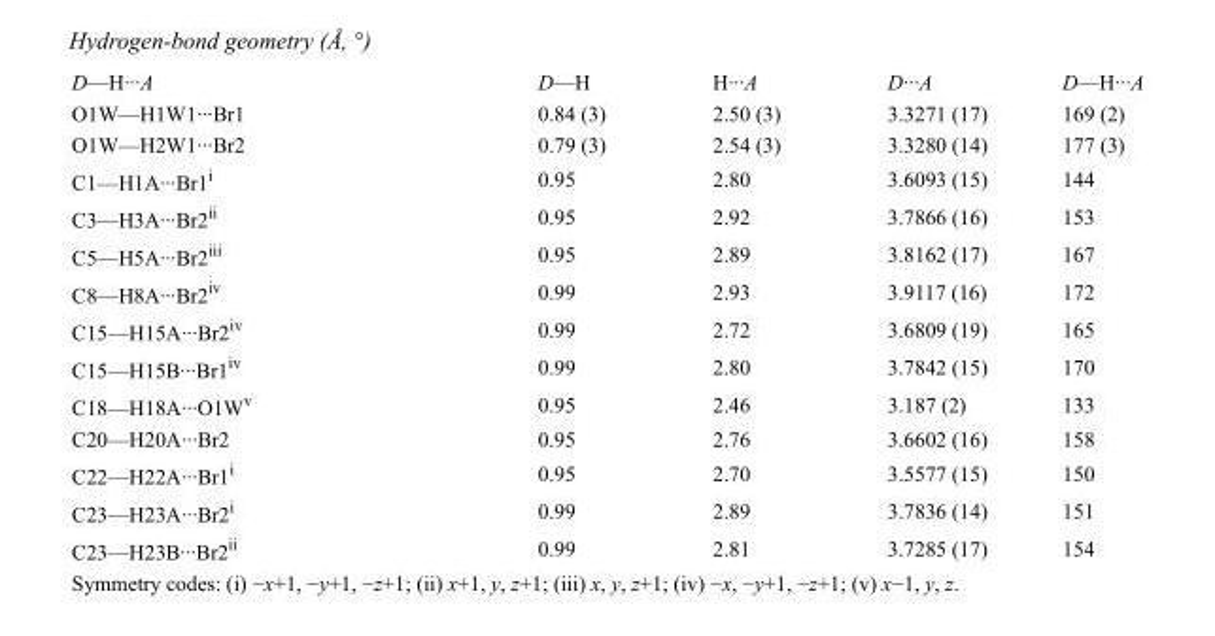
<table><tbody><tr><td>D—H···A</td><td>D—H</td><td>H···A</td><td>D···A</td><td>D—H···A</td></tr><tr><td>O1W—H1W1···Br1</td><td>0.84 (3)</td><td>2.50 (3)</td><td>3.3271 (17)</td><td>169 (2)</td></tr><tr><td>O1W—H2W1···Br2</td><td>0.79 (3)</td><td>2.54 (3)</td><td>3.3280 (14)</td><td>177 (3)</td></tr><tr><td>C1—H1A···Br1<sup>i</sup></td><td>0.95</td><td>2.80</td><td>3.6093 (15)</td><td>144</td></tr><tr><td>C3—H3A···Br2<sup>ii</sup></td><td>0.95</td><td>2.92</td><td>3.7866 (16)</td><td>153</td></tr><tr><td>C5—H5A···Br2<sup>iii</sup></td><td>0.95</td><td>2.89</td><td>3.8162 (17)</td><td>167</td></tr><tr><td>C8—H8A···Br2<sup>iv</sup></td><td>0.99</td><td>2.93</td><td>3.9117 (16)</td><td>172</td></tr><tr><td>C15—H15A···Br2<sup>iv</sup></td><td>0.99</td><td>2.72</td><td>3.6809 (19)</td><td>165</td></tr><tr><td>C15—H15B···Br1<sup>iv</sup></td><td>0.99</td><td>2.80</td><td>3.7842 (15)</td><td>170</td></tr><tr><td>C18—H18A···O1W<sup>v</sup></td><td>0.95</td><td>2.46</td><td>3.187 (2)</td><td>133</td></tr><tr><td>C20—H20A···Br2</td><td>0.95</td><td>2.76</td><td>3.6602 (16)</td><td>158</td></tr><tr><td>C22—H22A···Br1<sup>i</sup></td><td>0.95</td><td>2.70</td><td>3.5577 (15)</td><td>150</td></tr><tr><td>C23—H23A···Br2<sup>i</sup></td><td>0.99</td><td>2.89</td><td>3.7836 (14)</td><td>151</td></tr><tr><td>C23—H23B···Br2<sup>ii</sup></td><td>0.99</td><td>2.81</td><td>3.7285 (17)</td><td>154</td></tr></tbody></table>